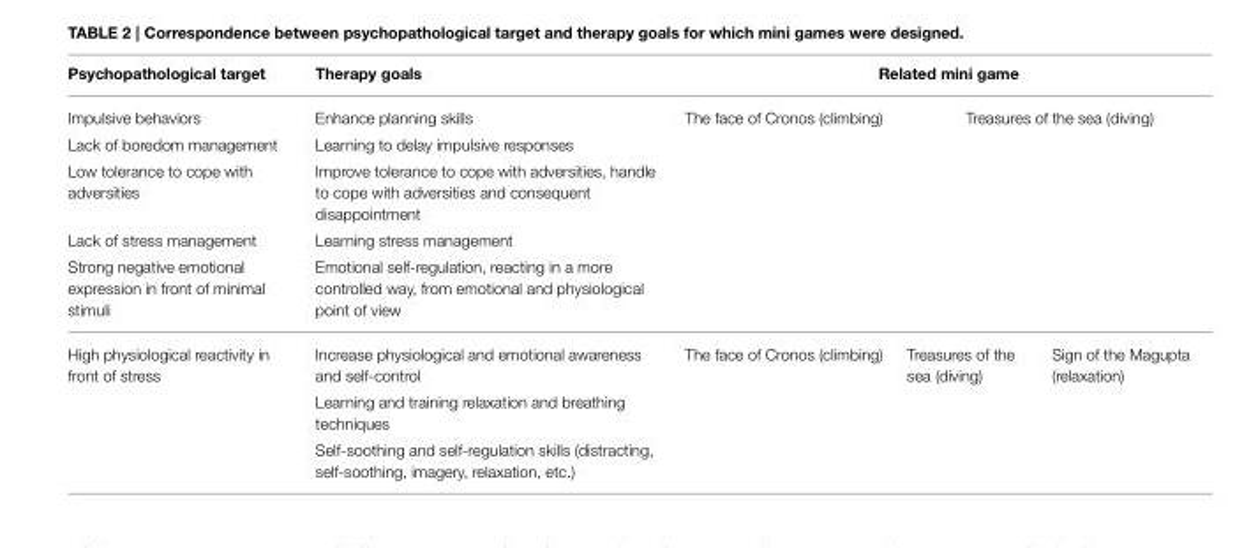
<table><thead><tr><td rowspan="3">Psychopathological target Impulsive behaviors Lack of boredom management</td><td rowspan="3">Therapy goals Enhance planning skills Learning to delay impulsive responses</td><td colspan="3">Related mini game</td></tr><tr><td rowspan="2">The face of Cronos (climbing)</td><td colspan="2">Treasures of the sea (diving)</td></tr><tr><td></td><td></td></tr></thead><tbody><tr><td>Low tolerance to cope with adversities</td><td>Improve tolerance to cope with adversities, handle to cope with adversities and consequent disappointment</td><td></td><td></td><td></td></tr><tr><td>Lack of stress management</td><td>Learning stress management</td><td></td><td></td><td></td></tr><tr><td>Strong negative emotional expression in front of minimal stimuli</td><td>Emotional self-regulation, reacting in a more controlled way, from emotional and physiological point of view</td><td></td><td></td><td></td></tr><tr><td rowspan="3">High physiological reactivity in front of stress</td><td>Increase physiological and emotional awareness and self-control</td><td>The face of Cronos (climbing)</td><td>Treasures of the sea (diving)</td><td>Sign of the Magupta (relaxation)</td></tr><tr><td>Learning and training relaxation and breathing techniques</td><td></td><td></td><td></td></tr><tr><td>Self-soothing and self-regulation skills (distracting, self-soothing, imagery, relaxation, etc.)</td><td></td><td></td><td></td></tr></tbody></table>